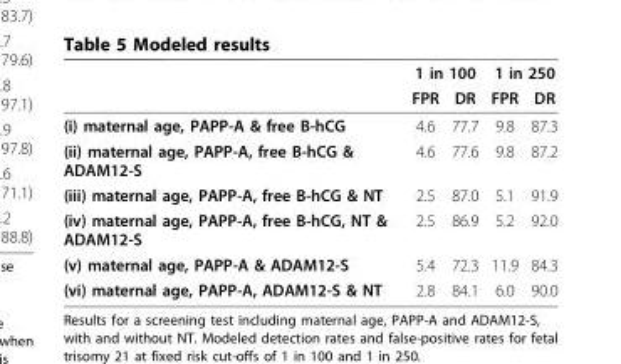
<table><thead><tr><td rowspan="2"></td><td colspan="2">1 in 100</td><td colspan="2">1 in 250</td></tr><tr><td>FPR</td><td>DR</td><td>FPR</td><td>DR</td></tr></thead><tbody><tr><td>(i) maternal age, PAPP-A &amp; free B-hCG</td><td>4.6</td><td>77.7</td><td>9.8</td><td>87.3</td></tr><tr><td>(ii) maternal age, PAPP-A, free B-hCG &amp; ADAM12-S</td><td>4.6</td><td>77.6</td><td>9.8</td><td>87.2</td></tr><tr><td>(iii) maternal age, PAPP-A, free B-hCG &amp; NT</td><td>2.5</td><td>87.0</td><td>5.1</td><td>91.9</td></tr><tr><td>(iv) maternal age, PAPP-A, free B-hCG, NT &amp; ADAM12-S</td><td>2.5</td><td>86.9</td><td>5.2</td><td>92.0</td></tr><tr><td>(v) maternal age, PAPP-A &amp; ADAM12-S</td><td>5.4</td><td>72.3</td><td>11.9</td><td>84.3</td></tr><tr><td>(vi) maternal age, PAPP-A, ADAM12-S &amp; NT</td><td>2.8</td><td>84.1</td><td>6.0</td><td>90.0</td></tr></tbody></table>